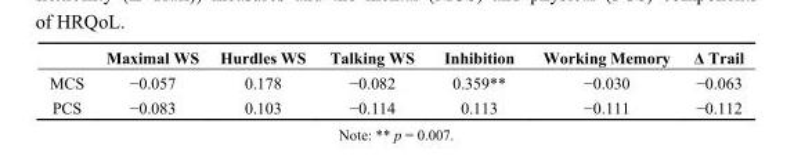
<table><thead><tr><td></td><td>Maximal WS</td><td>Hurdles WS</td><td>Talking WS</td><td>Inhibition</td><td>Working Memory</td><td>Δ Trail</td></tr></thead><tbody><tr><td>MCS</td><td>−0.057</td><td>0.178</td><td>−0.082</td><td>0.359**</td><td>−0.030</td><td>−0.063</td></tr><tr><td>PCS</td><td>−0.083</td><td>0.103</td><td>−0.114</td><td>0.113</td><td>−0.111</td><td>−0.112</td></tr></tbody></table>